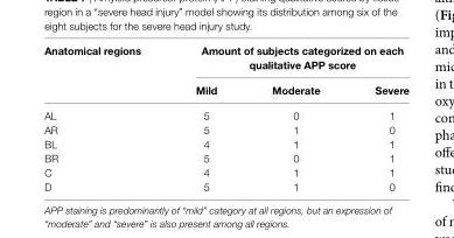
<table><thead><tr><td rowspan="2">anatomical regions</td><td colspan="3">amount of subjects categorized on each qualitative aPP score</td></tr><tr><td>Mild</td><td>Moderate</td><td>severe</td></tr></thead><tbody><tr><td>AL</td><td>5</td><td>0</td><td>1</td></tr><tr><td>AR</td><td>5</td><td>1</td><td>0</td></tr><tr><td>BL</td><td>4</td><td>1</td><td>1</td></tr><tr><td>BR</td><td>5</td><td>0</td><td>1</td></tr><tr><td>C</td><td>4</td><td>1</td><td>1</td></tr><tr><td>D</td><td>5</td><td>1</td><td>0</td></tr></tbody></table>